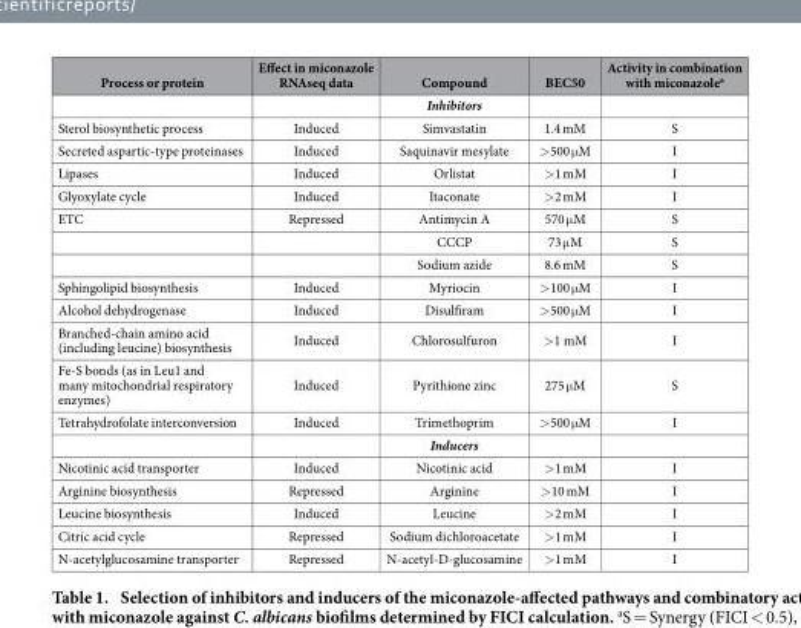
<table><thead><tr><td>Process or protein</td><td>Effect in miconazole RNAseq data</td><td>Compound</td><td>BEC50</td><td>Activity in combination with miconazole<sup>a</sup></td></tr></thead><tbody><tr><td></td><td></td><td>Inhibitors</td><td></td><td></td></tr><tr><td>Sterol biosynthetic process</td><td>Induced</td><td>Simvastatin</td><td>1.4 mM</td><td>S</td></tr><tr><td>Secreted aspartic-type proteinases</td><td>Induced</td><td>Saquinavir mesylate</td><td>&gt; 500 μ M</td><td>I</td></tr><tr><td>Lipases</td><td>Induced</td><td>Orlistat</td><td>&gt; 1 mM</td><td>I</td></tr><tr><td>Glyoxylate cycle</td><td>Induced</td><td>Itaconate</td><td>&gt; 2 mM</td><td>I</td></tr><tr><td rowspan="3">ETC</td><td>Repressed</td><td>Antimycin A</td><td>570 μ M</td><td>S</td></tr><tr><td></td><td>CCCP</td><td>73 μ M</td><td>S</td></tr><tr><td></td><td>Sodium azide</td><td>8.6 mM</td><td>S</td></tr><tr><td>Sphingolipid biosynthesis</td><td>Induced</td><td>Myriocin</td><td>&gt; 100 μ M</td><td>I</td></tr><tr><td>Alcohol dehydrogenase</td><td>Induced</td><td>Disulfiram</td><td>&gt; 500 μ M</td><td>I</td></tr><tr><td>Branched-chain amino acid (including leucine) biosynthesis</td><td>Induced</td><td>Chlorosulfuron</td><td>&gt; 1 mM</td><td>I</td></tr><tr><td>Fe-S bonds (as in Leu1 and many mitochondrial respiratory enzymes)</td><td>Induced</td><td>Pyrithione zinc</td><td>275 μ M</td><td>S</td></tr><tr><td rowspan="2">Tetrahydrofolate interconversion</td><td>Induced</td><td>Trimethoprim</td><td>&gt; 500 μ M</td><td>I</td></tr><tr><td></td><td>Inducers</td><td></td><td></td></tr><tr><td>Nicotinic acid transporter</td><td>Induced</td><td>Nicotinic acid</td><td>&gt; 1 mM</td><td>I</td></tr><tr><td>Arginine biosynthesis</td><td>Repressed</td><td>Arginine</td><td>&gt; 10 mM</td><td>I</td></tr><tr><td>Leucine biosynthesis</td><td>Induced</td><td>Leucine</td><td>&gt; 2 mM</td><td>I</td></tr><tr><td>Citric acid cycle</td><td>Repressed</td><td>Sodium dichloroacetate</td><td>&gt; 1 mM</td><td>I</td></tr><tr><td>N-acetylglucosamine transporter</td><td>Repressed</td><td>N-acetyl-D-glucosamine</td><td>&gt; 1 mM</td><td>I</td></tr></tbody></table>